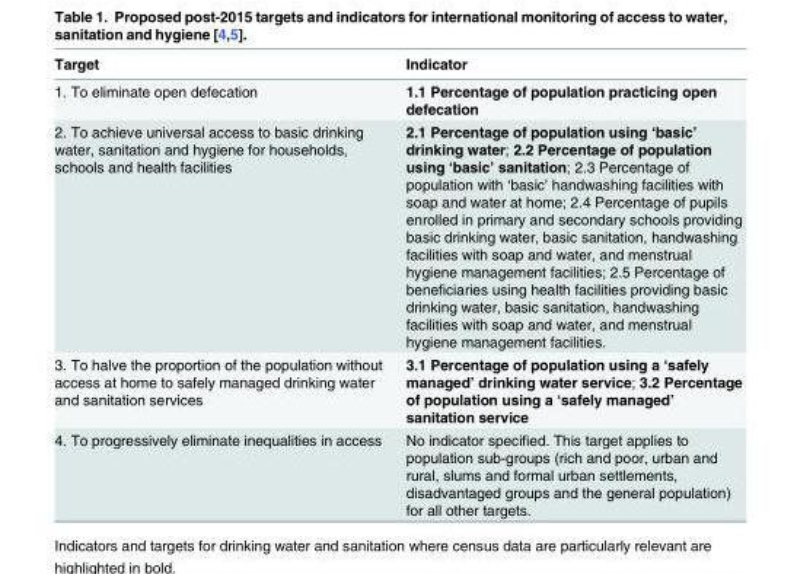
<table><thead><tr><td>Target</td><td>Indicator</td></tr></thead><tbody><tr><td>1. To eliminate open defecation</td><td>1.1 Percentage of population practicing open defecation</td></tr><tr><td>2. To achieve universal access to basic drinking water, sanitation and hygiene for households, schools and health facilities</td><td>2.1 Percentage of population using ‘basic’ drinking water; 2.2 Percentage of population using ‘basic’ sanitation; 2.3 Percentage of population with ‘basic’ handwashing facilities with soap and water at home; 2.4 Percentage of pupils enrolled in primary and secondary schools providing basic drinking water, basic sanitation, handwashing facilities with soap and water, and menstrual hygiene management facilities; 2.5 Percentage of beneficiaries using health facilities providing basic drinking water, basic sanitation, handwashing facilities with soap and water, and menstrual hygiene management facilities.</td></tr><tr><td>3. To halve the proportion of the population without access at home to safely managed drinking water and sanitation services</td><td>3.1 Percentage of population using a ‘safely managed’ drinking water service; 3.2 Percentage of population using a ‘safely managed’ sanitation service</td></tr><tr><td>4. To progressively eliminate inequalities in access</td><td>No indicator specified. This target applies to population sub-groups (rich and poor, urban and rural, slums and formal urban settlements, disadvantaged groups and the general population) for all other targets.</td></tr></tbody></table>